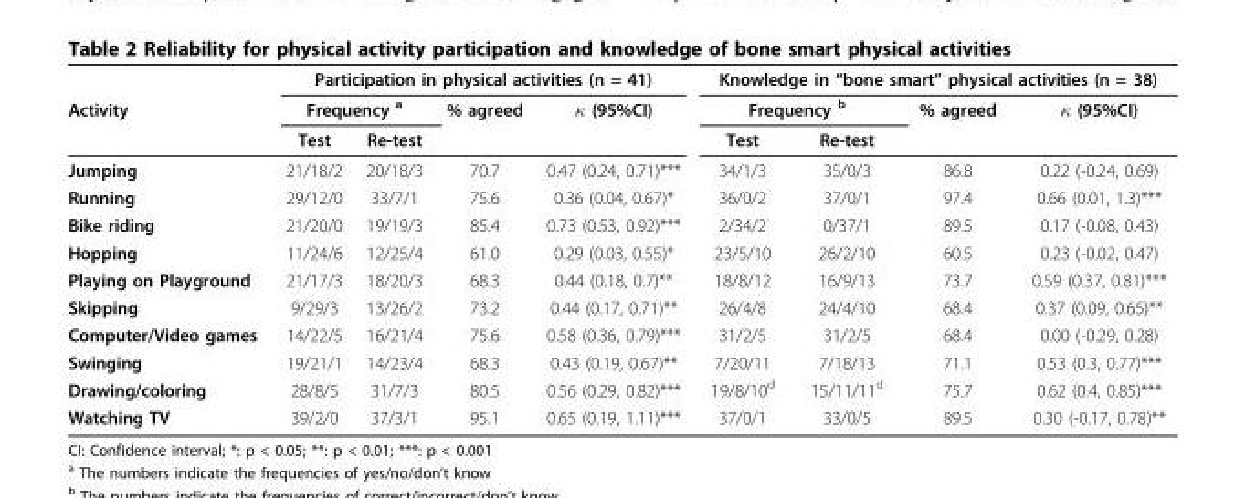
<table><thead><tr><td rowspan="3">Activity</td><td colspan="4">Participation in physical activities (n = 41)</td><td colspan="4">Knowledge in “bone smart” physical activities (n = 38)</td></tr><tr><td colspan="2">Frequency <sup>a</sup></td><td rowspan="2">% agreed</td><td rowspan="2">κ (95%CI)</td><td colspan="2">Frequency <sup>b</sup></td><td rowspan="2">% agreed</td><td rowspan="2">κ (95%CI)</td></tr><tr><td>Test</td><td>Re-test</td><td>Test</td><td>Re-test</td></tr></thead><tbody><tr><td>Jumping</td><td>21/18/2</td><td>20/18/3</td><td>70.7</td><td>0.47 (0.24, 0.71)***</td><td>34/1/3</td><td>35/0/3</td><td>86.8</td><td>0.22 (-0.24, 0.69)</td></tr><tr><td>Running</td><td>29/12/0</td><td>33/7/1</td><td>75.6</td><td>0.36 (0.04, 0.67)*</td><td>36/0/2</td><td>37/0/1</td><td>97.4</td><td>0.66 (0.01, 1.3)***</td></tr><tr><td>Bike riding</td><td>21/20/0</td><td>19/19/3</td><td>85.4</td><td>0.73 (0.53, 0.92)***</td><td>2/34/2</td><td>0/37/1</td><td>89.5</td><td>0.17 (-0.08, 0.43)</td></tr><tr><td>Hopping</td><td>11/24/6</td><td>12/25/4</td><td>61.0</td><td>0.29 (0.03, 0.55)*</td><td>23/5/10</td><td>26/2/10</td><td>60.5</td><td>0.23 (-0.02, 0.47)</td></tr><tr><td>Playing on Playground</td><td>21/17/3</td><td>18/20/3</td><td>68.3</td><td>0.44 (0.18, 0.7)**</td><td>18/8/12</td><td>16/9/13</td><td>73.7</td><td>0.59 (0.37, 0.81)***</td></tr><tr><td>Skipping</td><td>9/29/3</td><td>13/26/2</td><td>73.2</td><td>0.44 (0.17, 0.71)**</td><td>26/4/8</td><td>24/4/10</td><td>68.4</td><td>0.37 (0.09, 0.65)**</td></tr><tr><td>Computer/Video games</td><td>14/22/5</td><td>16/21/4</td><td>75.6</td><td>0.58 (0.36, 0.79)***</td><td>31/2/5</td><td>31/2/5</td><td>68.4</td><td>0.00 (-0.29, 0.28)</td></tr><tr><td>Swinging</td><td>19/21/1</td><td>14/23/4</td><td>68.3</td><td>0.43 (0.19, 0.67)**</td><td>7/20/11</td><td>7/18/13</td><td>71.1</td><td>0.53 (0.3, 0.77)***</td></tr><tr><td>Drawing/coloring</td><td>28/8/5</td><td>31/7/3</td><td>80.5</td><td>0.56 (0.29, 0.82)***</td><td>19/8/10<sup>d</sup></td><td>15/11/11<sup>d</sup></td><td>75.7</td><td>0.62 (0.4, 0.85)***</td></tr><tr><td>Watching TV</td><td>39/2/0</td><td>37/3/1</td><td>95.1</td><td>0.65 (0.19, 1.11)***</td><td>37/0/1</td><td>33/0/5</td><td>89.5</td><td>0.30 (-0.17, 0.78)**</td></tr></tbody></table>